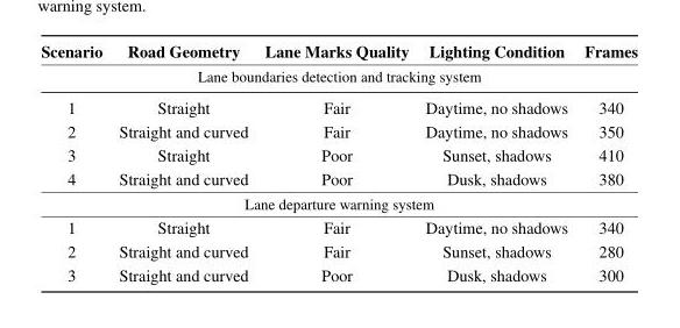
<table><thead><tr><td>Scenario</td><td>Road Geometry</td><td>Lane Marks Quality</td><td>Lighting Condition</td><td>Frames</td></tr></thead><tbody><tr><td colspan="5">Lane boundaries detection and tracking system</td></tr><tr><td>1</td><td>Straight</td><td>Fair</td><td>Daytime, no shadows</td><td>340</td></tr><tr><td>2</td><td>Straight and curved</td><td>Fair</td><td>Daytime, no shadows</td><td>350</td></tr><tr><td>3</td><td>Straight</td><td>Poor</td><td>Sunset, shadows</td><td>410</td></tr><tr><td>4</td><td>Straight and curved</td><td>Poor</td><td>Dusk, shadows</td><td>380</td></tr><tr><td colspan="5">Lane departure warning system</td></tr><tr><td>1</td><td>Straight</td><td>Fair</td><td>Daytime, no shadows</td><td>340</td></tr><tr><td>2</td><td>Straight and curved</td><td>Fair</td><td>Sunset, shadows</td><td>280</td></tr><tr><td>3</td><td>Straight and curved</td><td>Poor</td><td>Dusk, shadows</td><td>300</td></tr></tbody></table>